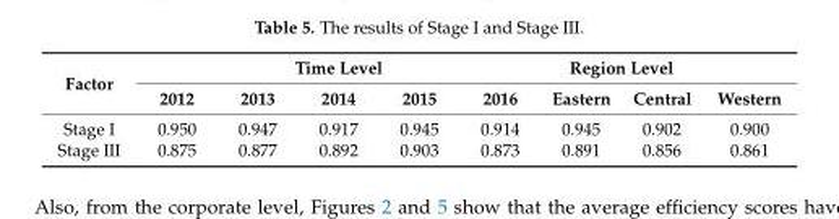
<table><thead><tr><td rowspan="2">Factor</td><td colspan="5">Time Level</td><td colspan="2">Region Level</td><td rowspan="2">Western</td></tr><tr><td>2012</td><td>2013</td><td>2014</td><td>2015</td><td>2016</td><td>Eastern</td><td>Central</td></tr></thead><tbody><tr><td>Stage I</td><td>0.950</td><td>0.947</td><td>0.917</td><td>0.945</td><td>0.914</td><td>0.945</td><td>0.902</td><td>0.900</td></tr><tr><td>Stage III</td><td>0.875</td><td>0.877</td><td>0.892</td><td>0.903</td><td>0.873</td><td>0.891</td><td>0.856</td><td>0.861</td></tr></tbody></table>